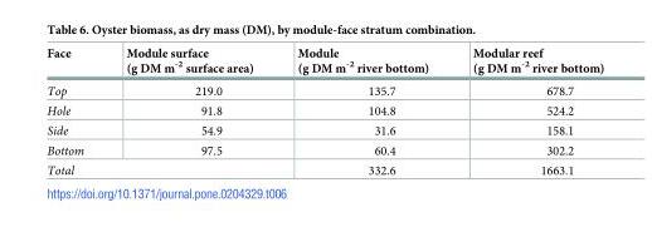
<table><thead><tr><td>Face</td><td>Module surface (g DM m<sup>-2</sup> surface area)</td><td>Module (g DM m<sup>-2</sup> river bottom)</td><td>Modular reef (g DM m<sup>-2</sup> river bottom)</td></tr></thead><tbody><tr><td>Top</td><td>219.0</td><td>135.7</td><td>678.7</td></tr><tr><td>Hole</td><td>91.8</td><td>104.8</td><td>524.2</td></tr><tr><td>Side</td><td>54.9</td><td>31.6</td><td>158.1</td></tr><tr><td>Bottom</td><td>97.5</td><td>60.4</td><td>302.2</td></tr><tr><td colspan="2">Total</td><td>332.6</td><td>1663.1</td></tr></tbody></table>